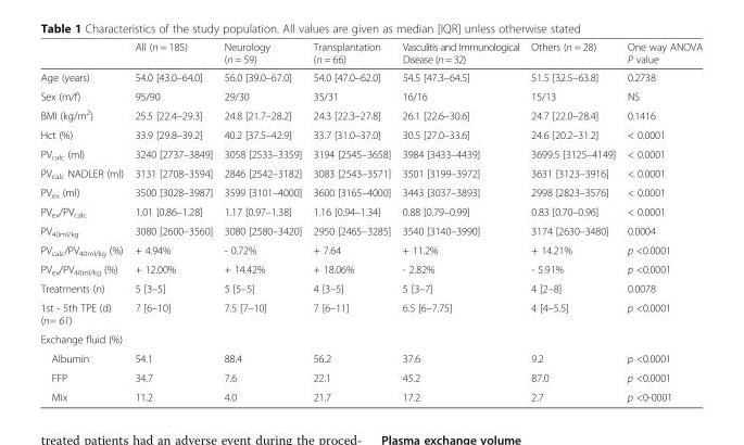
<table><thead><tr><td></td><td>All (n = 185)</td><td>Neurology (n = 59)</td><td>Transplantation (n = 66)</td><td>Vasculitis and Immunological Disease (n = 32)</td><td>Others (n = 28)</td><td>One way ANOVA P value</td></tr></thead><tbody><tr><td>Age (years)</td><td>54.0 [43.0–64.0]</td><td>56.0 [39.0–67.0]</td><td>54.0 [47.0–62.0]</td><td>54.5 [47.3–64.5]</td><td>51.5 [32.5–63.8]</td><td>0.2738</td></tr><tr><td>Sex (m/f)</td><td>95/90</td><td>29/30</td><td>35/31</td><td>16/16</td><td>15/13</td><td>NS</td></tr><tr><td>BMI (kg/m<sup>2</sup>)</td><td>25.5 [22.4–29.3]</td><td>24.8 [21.7–28.2]</td><td>24.3 [22.3–27.8]</td><td>26.1 [22.6–30.6]</td><td>24.7 [22.0–28.4]</td><td>0.1416</td></tr><tr><td>Hct (%)</td><td>33.9 [29.8–39.2]</td><td>40.2 [37.5–42.9]</td><td>33.7 [31.0–37.0]</td><td>30.5 [27.0–33.6]</td><td>24.6 [20.2–31.2]</td><td>&lt; 0.0001</td></tr><tr><td>PV<sub>calc</sub> (ml)</td><td>3240 [2737–3849]</td><td>3058 [2533–3359]</td><td>3194 [2545–3658]</td><td>3984 [3433–4439]</td><td>3699.5 [3125–4149]</td><td>&lt; 0.0001</td></tr><tr><td>PV<sub>calc</sub> NADLER (ml)</td><td>3131 [2708–3594]</td><td>2846 [2542–3182]</td><td>3083 [2543–3571]</td><td>3501 [3199–3972]</td><td>3631 [3123–3916]</td><td>&lt; 0.0001</td></tr><tr><td>PV<sub>ex</sub> (ml)</td><td>3500 [3028–3987]</td><td>3599 [3101–4000]</td><td>3600 [3165–4000]</td><td>3443 [3037–3893]</td><td>2998 [2823–3576]</td><td>&lt; 0.0001</td></tr><tr><td>PV<sub>ex</sub>/PV<sub>calc</sub></td><td>1.01 [0.86–1.28]</td><td>1.17 [0.97–1.38]</td><td>1.16 [0.94–1.34]</td><td>0.88 [0.79–0.99]</td><td>0.83 [0.70–0.96]</td><td>&lt; 0.0001</td></tr><tr><td>PV<sub>40ml/kg</sub></td><td>3080 [2600–3560]</td><td>3080 [2580–3420]</td><td>2950 [2465–3285]</td><td>3540 [3140–3990]</td><td>3174 [2630–3480]</td><td>0.0004</td></tr><tr><td>PV<sub>calc</sub>/PV<sub>40ml/kg</sub> (%)</td><td>+ 4.94%</td><td>- 0.72%</td><td>+ 7.64</td><td>+ 11.2%</td><td>+ 14.21%</td><td>p &lt;0.0001</td></tr><tr><td>PV<sub>ex</sub>/PV<sub>40ml/kg</sub> (%)</td><td>+ 12.00%</td><td>+ 14.42%</td><td>+ 18.06%</td><td>- 2.82%</td><td>- 5.91%</td><td>p &lt;0.0001</td></tr><tr><td>Treatments (n)</td><td>5 [3–5]</td><td>5 [5–5]</td><td>4 [3–5]</td><td>5 [3–7]</td><td>4 [2–8]</td><td>0.0078</td></tr><tr><td>1st - 5th TPE (d) (n= 61)</td><td>7 [6–10]</td><td>7.5 [7–10]</td><td>7 [6–11]</td><td>6.5 [6–7.75]</td><td>4 [4–5.5]</td><td>p &lt;0.0001</td></tr><tr><td colspan="7">Exchange fluid (%)</td></tr><tr><td>Albumin</td><td>54.1</td><td>88.4</td><td>56.2</td><td>37.6</td><td>9.2</td><td>p &lt;0.0001</td></tr><tr><td>FFP</td><td>34.7</td><td>7.6</td><td>22.1</td><td>45.2</td><td>87.0</td><td>p &lt;0.0001</td></tr><tr><td>Mix</td><td>11.2</td><td>4.0</td><td>21.7</td><td>17.2</td><td>2.7</td><td>p &lt;0-0001</td></tr></tbody></table>